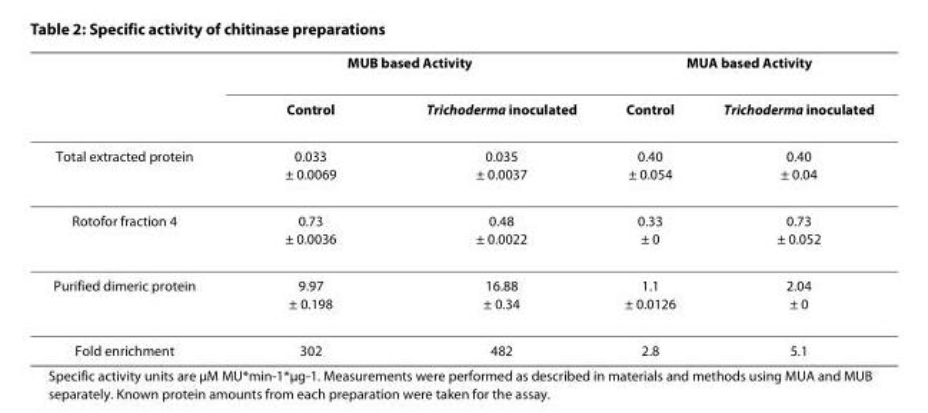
<table><thead><tr><td rowspan="2"></td><td colspan="2">MUB based Activity</td><td colspan="2">MUA based Activity</td></tr><tr><td>Control</td><td>Trichoderma inoculated</td><td>Control</td><td>Trichoderma inoculated</td></tr></thead><tbody><tr><td>Total extracted protein</td><td>0.033 ± 0.0069</td><td>0.035 ± 0.0037</td><td>0.40 ± 0.054</td><td>0.40 ± 0.04</td></tr><tr><td>Rotofor fraction 4</td><td>0.73 ± 0.0036</td><td>0.48 ± 0.0022</td><td>0.33 ± 0</td><td>0.73 ± 0.052</td></tr><tr><td>Purified dimeric protein</td><td>9.97 ± 0.198</td><td>16.88 ± 0.34</td><td>1.1 ± 0.0126</td><td>2.04 ± 0</td></tr><tr><td>Fold enrichment</td><td>302</td><td>482</td><td>2.8</td><td>5.1</td></tr></tbody></table>